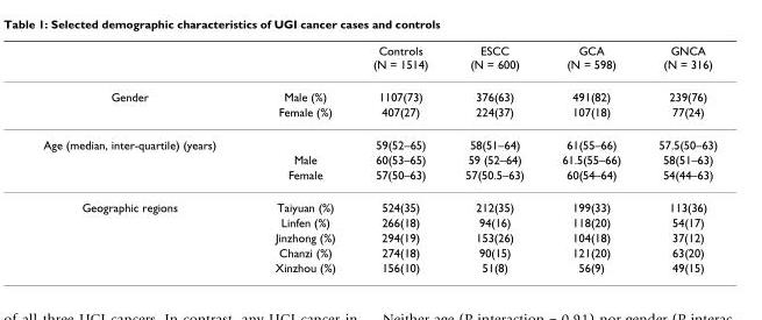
<table><thead><tr><td></td><td></td><td>Controls (N = 1514)</td><td>ESCC (N = 600)</td><td>GCA (N = 598)</td><td>GNCA (N = 316)</td></tr></thead><tbody><tr><td rowspan="2">Gender</td><td>Male (%)</td><td>1107(73)</td><td>376(63)</td><td>491(82)</td><td>239(76)</td></tr><tr><td>Female (%)</td><td>407(27)</td><td>224(37)</td><td>107(18)</td><td>77(24)</td></tr><tr><td rowspan="3">Age (median, inter-quartile) (years)</td><td></td><td>59(52–65)</td><td>58(51–64)</td><td>61(55–66)</td><td>57.5(50–63)</td></tr><tr><td>Male</td><td>60(53–65)</td><td>59 (52–64)</td><td>61.5(55–66)</td><td>58(51–63)</td></tr><tr><td>Female</td><td>57(50–63)</td><td>57(50.5–63)</td><td>60(54–64)</td><td>54(44–63)</td></tr><tr><td rowspan="5">Geographic regions</td><td>Taiyuan (%)</td><td>524(35)</td><td>212(35)</td><td>199(33)</td><td>113(36)</td></tr><tr><td>Linfen (%)</td><td>266(18)</td><td>94(16)</td><td>118(20)</td><td>54(17)</td></tr><tr><td>Jinzhong (%)</td><td>294(19)</td><td>153(26)</td><td>104(18)</td><td>37(12)</td></tr><tr><td>Chanzi (%)</td><td>274(18)</td><td>90(15)</td><td>121(20)</td><td>63(20)</td></tr><tr><td>Xinzhou (%)</td><td>156(10)</td><td>51(8)</td><td>56(9)</td><td>49(15)</td></tr></tbody></table>